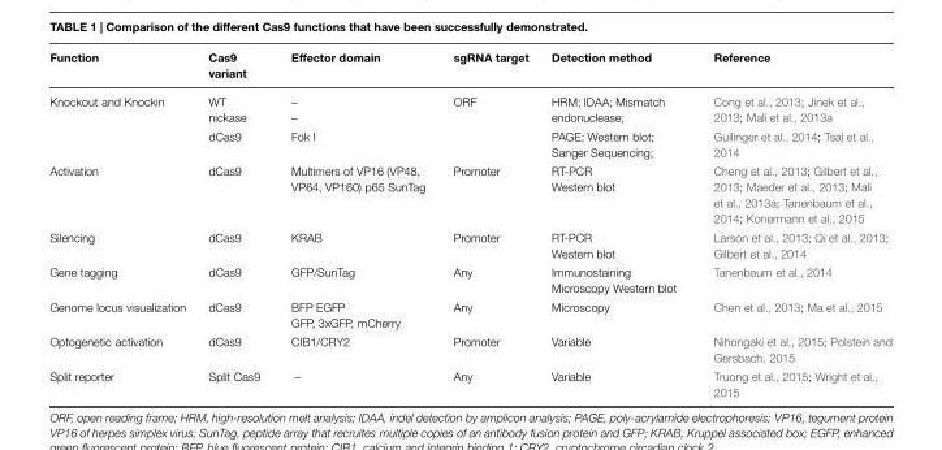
<table><thead><tr><td>Function</td><td>Cas9 variant</td><td>Effector domain</td><td>sgRNA target</td><td>Detection method</td><td>Reference</td></tr></thead><tbody><tr><td rowspan="2">Knockout and Knockin</td><td>WT nickase</td><td>– –</td><td>ORF</td><td>HRM; IDAA; Mismatch endonuclease;</td><td>Cong et al., 2013; Jinek et al., 2013; Mali et al., 2013a</td></tr><tr><td>dCas9</td><td>Fok I</td><td></td><td>PAGE; Western blot; Sanger Sequencing;</td><td>Guilinger et al., 2014; Tsai et al., 2014</td></tr><tr><td>Activation</td><td>dCas9</td><td>Multimers of VP16 (VP48, VP64, VP160) p65 SunTag</td><td>Promoter</td><td>RT-PCR Western blot</td><td>Cheng et al., 2013; Gilbert et al., 2013; Maeder et al., 2013; Mali et al., 2013a; Tanenbaum et al., 2014; Konermann et al., 2015</td></tr><tr><td>Silencing</td><td>dCas9</td><td>KRAB</td><td>Promoter</td><td>RT-PCR Western blot</td><td>Larson et al., 2013; Qi et al., 2013; Gilbert et al., 2014</td></tr><tr><td>Gene tagging</td><td>dCas9</td><td>GFP/SunTag</td><td>Any</td><td>Immunostaining Microscopy Western blot</td><td>Tanenbaum et al., 2014</td></tr><tr><td>Genome locus visualization</td><td>dCas9</td><td>BFP EGFP GFP, 3xGFP, mCherry</td><td>Any</td><td>Microscopy</td><td>Chen et al., 2013; Ma et al., 2015</td></tr><tr><td>Optogenetic activation</td><td>dCas9</td><td>CIB1/CRY2</td><td>Promoter</td><td>Variable</td><td>Nihongaki et al., 2015; Polstein and Gersbach, 2015</td></tr><tr><td>Split reporter</td><td>Split Cas9</td><td>–</td><td>Any</td><td>Variable</td><td>Truong et al., 2015; Wright et al., 2015</td></tr></tbody></table>